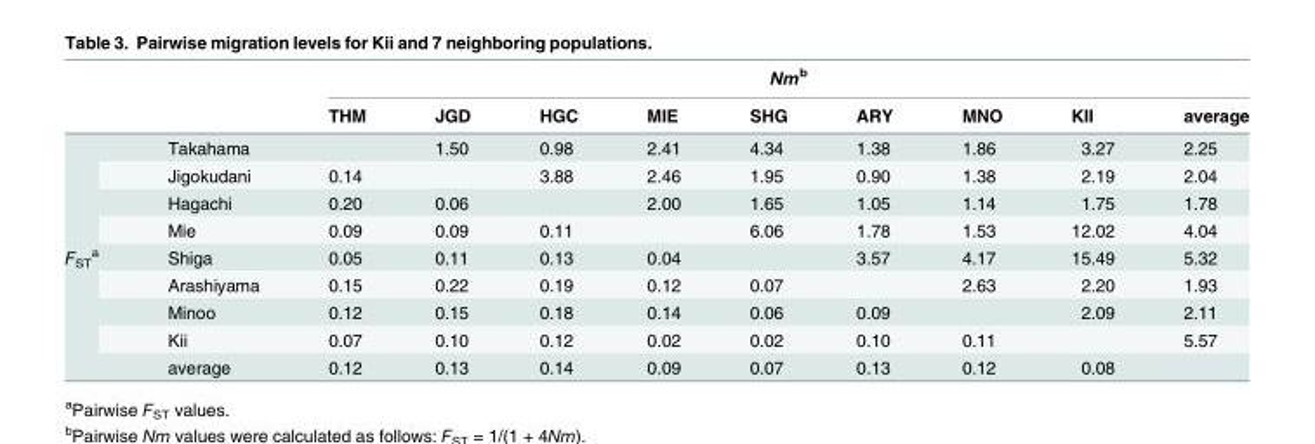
<table><thead><tr><td rowspan="2"></td><td rowspan="2"></td><td colspan="9">Nm<sup>b</sup></td></tr><tr><td>THM</td><td>JGD</td><td>HGC</td><td>MIE</td><td>SHG</td><td>ARY</td><td>MNO</td><td>KII</td><td>average</td></tr></thead><tbody><tr><td rowspan="9">F<sub>ST</sub> <sup>a</sup></td><td>Takahama</td><td></td><td>1.50</td><td>0.98</td><td>2.41</td><td>4.34</td><td>1.38</td><td>1.86</td><td>3.27</td><td>2.25</td></tr><tr><td>Jigokudani</td><td>0.14</td><td></td><td>3.88</td><td>2.46</td><td>1.95</td><td>0.90</td><td>1.38</td><td>2.19</td><td>2.04</td></tr><tr><td>Hagachi</td><td>0.20</td><td>0.06</td><td></td><td>2.00</td><td>1.65</td><td>1.05</td><td>1.14</td><td>1.75</td><td>1.78</td></tr><tr><td>Mie</td><td>0.09</td><td>0.09</td><td>0.11</td><td></td><td>6.06</td><td>1.78</td><td>1.53</td><td>12.02</td><td>4.04</td></tr><tr><td>Shiga</td><td>0.05</td><td>0.11</td><td>0.13</td><td>0.04</td><td></td><td>3.57</td><td>4.17</td><td>15.49</td><td>5.32</td></tr><tr><td>Arashiyama</td><td>0.15</td><td>0.22</td><td>0.19</td><td>0.12</td><td>0.07</td><td></td><td>2.63</td><td>2.20</td><td>1.93</td></tr><tr><td>Minoo</td><td>0.12</td><td>0.15</td><td>0.18</td><td>0.14</td><td>0.06</td><td>0.09</td><td></td><td>2.09</td><td>2.11</td></tr><tr><td>Kii</td><td>0.07</td><td>0.10</td><td>0.12</td><td>0.02</td><td>0.02</td><td>0.10</td><td>0.11</td><td></td><td>5.57</td></tr><tr><td>average</td><td>0.12</td><td>0.13</td><td>0.14</td><td>0.09</td><td>0.07</td><td>0.13</td><td>0.12</td><td>0.08</td><td></td></tr></tbody></table>